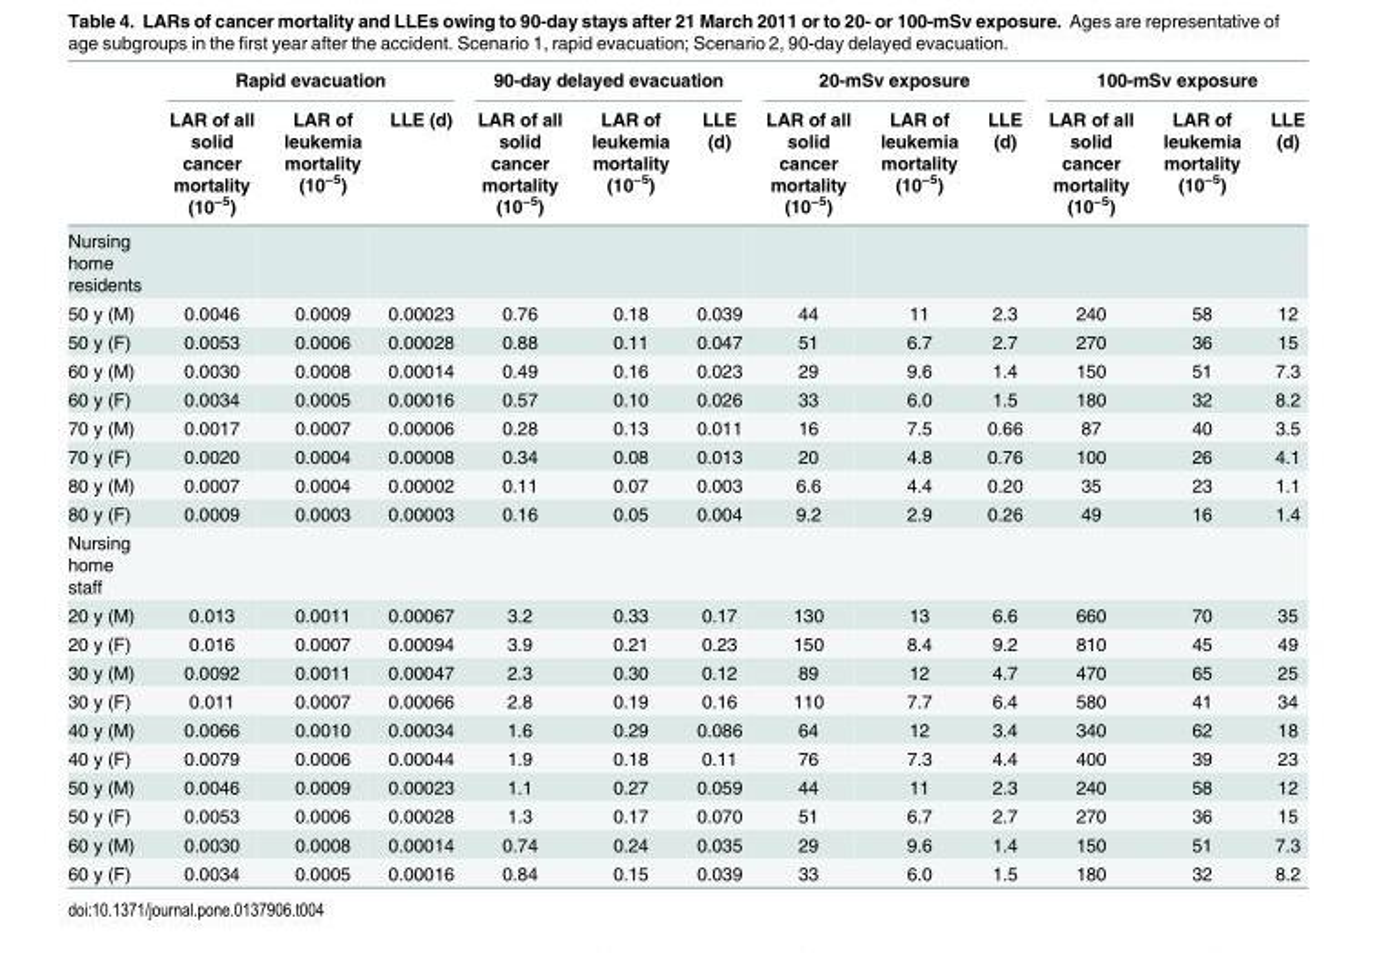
<table><thead><tr><td rowspan="2"></td><td colspan="3">Rapid evacuation</td><td colspan="3">90-day delayed evacuation</td><td colspan="3">20-mSv exposure</td><td colspan="3">100-mSv exposure</td></tr><tr><td>LAR of all solid cancer mortality (10<sup>−5</sup>)</td><td>LAR of leukemia mortality (10<sup>−5</sup>)</td><td>LLE (d)</td><td>LAR of all solid cancer mortality (10<sup>−5</sup>)</td><td>LAR of leukemia mortality (10<sup>−5</sup>)</td><td>LLE (d)</td><td>LAR of all solid cancer mortality (10<sup>−5</sup>)</td><td>LAR of leukemia mortality (10<sup>−5</sup>)</td><td>LLE (d)</td><td>LAR of all solid cancer mortality (10<sup>−5</sup>)</td><td>LAR of leukemia mortality (10<sup>−5</sup>)</td><td>LLE (d)</td></tr></thead><tbody><tr><td colspan="13">Nursing home residents</td></tr><tr><td>50 y (M)</td><td>0.0046</td><td>0.0009</td><td>0.00023</td><td>0.76</td><td>0.18</td><td>0.039</td><td>44</td><td>11</td><td>2.3</td><td>240</td><td>58</td><td>12</td></tr><tr><td>50 y (F)</td><td>0.0053</td><td>0.0006</td><td>0.00028</td><td>0.88</td><td>0.11</td><td>0.047</td><td>51</td><td>6.7</td><td>2.7</td><td>270</td><td>36</td><td>15</td></tr><tr><td>60 y (M)</td><td>0.0030</td><td>0.0008</td><td>0.00014</td><td>0.49</td><td>0.16</td><td>0.023</td><td>29</td><td>9.6</td><td>1.4</td><td>150</td><td>51</td><td>7.3</td></tr><tr><td>60 y (F)</td><td>0.0034</td><td>0.0005</td><td>0.00016</td><td>0.57</td><td>0.10</td><td>0.026</td><td>33</td><td>6.0</td><td>1.5</td><td>180</td><td>32</td><td>8.2</td></tr><tr><td>70 y (M)</td><td>0.0017</td><td>0.0007</td><td>0.00006</td><td>0.28</td><td>0.13</td><td>0.011</td><td>16</td><td>7.5</td><td>0.66</td><td>87</td><td>40</td><td>3.5</td></tr><tr><td>70 y (F)</td><td>0.0020</td><td>0.0004</td><td>0.00008</td><td>0.34</td><td>0.08</td><td>0.013</td><td>20</td><td>4.8</td><td>0.76</td><td>100</td><td>26</td><td>4.1</td></tr><tr><td>80 y (M)</td><td>0.0007</td><td>0.0004</td><td>0.00002</td><td>0.11</td><td>0.07</td><td>0.003</td><td>6.6</td><td>4.4</td><td>0.20</td><td>35</td><td>23</td><td>1.1</td></tr><tr><td>80 y (F)</td><td>0.0009</td><td>0.0003</td><td>0.00003</td><td>0.16</td><td>0.05</td><td>0.004</td><td>9.2</td><td>2.9</td><td>0.26</td><td>49</td><td>16</td><td>1.4</td></tr><tr><td colspan="13">Nursing home staff</td></tr><tr><td>20 y (M)</td><td>0.013</td><td>0.0011</td><td>0.00067</td><td>3.2</td><td>0.33</td><td>0.17</td><td>130</td><td>13</td><td>6.6</td><td>660</td><td>70</td><td>35</td></tr><tr><td>20 y (F)</td><td>0.016</td><td>0.0007</td><td>0.00094</td><td>3.9</td><td>0.21</td><td>0.23</td><td>150</td><td>8.4</td><td>9.2</td><td>810</td><td>45</td><td>49</td></tr><tr><td>30 y (M)</td><td>0.0092</td><td>0.0011</td><td>0.00047</td><td>2.3</td><td>0.30</td><td>0.12</td><td>89</td><td>12</td><td>4.7</td><td>470</td><td>65</td><td>25</td></tr><tr><td>30 y (F)</td><td>0.011</td><td>0.0007</td><td>0.00066</td><td>2.8</td><td>0.19</td><td>0.16</td><td>110</td><td>7.7</td><td>6.4</td><td>580</td><td>41</td><td>34</td></tr><tr><td>40 y (M)</td><td>0.0066</td><td>0.0010</td><td>0.00034</td><td>1.6</td><td>0.29</td><td>0.086</td><td>64</td><td>12</td><td>3.4</td><td>340</td><td>62</td><td>18</td></tr><tr><td>40 y (F)</td><td>0.0079</td><td>0.0006</td><td>0.00044</td><td>1.9</td><td>0.18</td><td>0.11</td><td>76</td><td>7.3</td><td>4.4</td><td>400</td><td>39</td><td>23</td></tr><tr><td>50 y (M)</td><td>0.0046</td><td>0.0009</td><td>0.00023</td><td>1.1</td><td>0.27</td><td>0.059</td><td>44</td><td>11</td><td>2.3</td><td>240</td><td>58</td><td>12</td></tr><tr><td>50 y (F)</td><td>0.0053</td><td>0.0006</td><td>0.00028</td><td>1.3</td><td>0.17</td><td>0.070</td><td>51</td><td>6.7</td><td>2.7</td><td>270</td><td>36</td><td>15</td></tr><tr><td>60 y (M)</td><td>0.0030</td><td>0.0008</td><td>0.00014</td><td>0.74</td><td>0.24</td><td>0.035</td><td>29</td><td>9.6</td><td>1.4</td><td>150</td><td>51</td><td>7.3</td></tr><tr><td>60 y (F)</td><td>0.0034</td><td>0.0005</td><td>0.00016</td><td>0.84</td><td>0.15</td><td>0.039</td><td>33</td><td>6.0</td><td>1.5</td><td>180</td><td>32</td><td>8.2</td></tr></tbody></table>